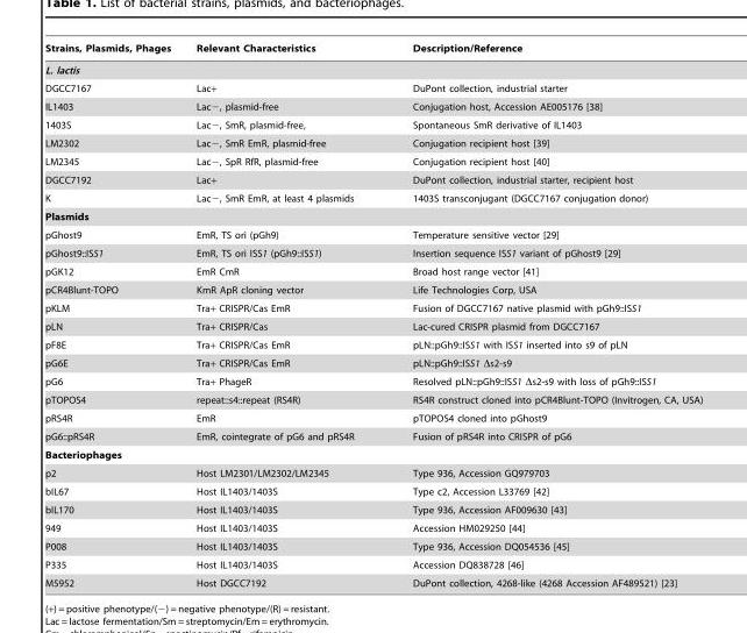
<table><thead><tr><td>Strains, Plasmids, Phages</td><td>Relevant Characteristics</td><td>Description/Reference</td></tr></thead><tbody><tr><td colspan="3">L. lactis</td></tr><tr><td>DGCC7167</td><td>Lac+</td><td>DuPont collection, industrial starter</td></tr><tr><td>IL1403</td><td>Lac−, plasmid-free</td><td>Conjugation host, Accession AE005176 [38]</td></tr><tr><td>1403S</td><td>Lac−, SmR, plasmid-free,</td><td>Spontaneous SmR derivative of IL1403</td></tr><tr><td>LM2302</td><td>Lac−, SmR EmR, plasmid-free</td><td>Conjugation recipient host [39]</td></tr><tr><td>LM2345</td><td>Lac−, SpR RfR, plasmid-free</td><td>Conjugation recipient host [40]</td></tr><tr><td>DGCC7192</td><td>Lac+</td><td>DuPont collection, industrial starter, recipient host</td></tr><tr><td>K</td><td>Lac−, SmR EmR, at least 4 plasmids</td><td>1403S transconjugant (DGCC7167 conjugation donor)</td></tr><tr><td colspan="3">Plasmids</td></tr><tr><td>pGhost9</td><td>EmR, TS ori (pGh9)</td><td>Temperature sensitive vector [29]</td></tr><tr><td>pGhost9::ISS1</td><td>EmR, TS ori ISS1 (pGh9::ISS1)</td><td>Insertion sequence ISS1 variant of pGhost9 [29]</td></tr><tr><td>pGK12</td><td>EmR CmR</td><td>Broad host range vector [41]</td></tr><tr><td>pCR4Blunt-TOPO</td><td>KmR ApR cloning vector</td><td>Life Technologies Corp, USA</td></tr><tr><td>pKLM</td><td>Tra+ CRISPR/Cas EmR</td><td>Fusion of DGCC7167 native plasmid with pGh9::ISS1</td></tr><tr><td>pLN</td><td>Tra+ CRISPR/Cas</td><td>Lac-cured CRISPR plasmid from DGCC7167</td></tr><tr><td>pF8E</td><td>Tra+ CRISPR/Cas EmR</td><td>pLN::pGh9::ISS1 with ISS1 inserted into s9 of pLN</td></tr><tr><td>pG6E</td><td>Tra+ CRISPR/Cas EmR</td><td>pLN::pGh9::ISS1 Δs2-s9</td></tr><tr><td>pG6</td><td>Tra+ PhageR</td><td>Resolved pLN::pGh9::ISS1 Δs2-s9 with loss of pGh9::ISS1</td></tr><tr><td>pTOPOS4</td><td>repeat::s4::repeat (RS4R)</td><td>RS4R construct cloned into pCR4Blunt-TOPO (Invitrogen, CA, USA)</td></tr><tr><td>pRS4R</td><td>EmR</td><td>pTOPOS4 cloned into pGhost9</td></tr><tr><td>pG6::pRS4R</td><td>EmR, cointegrate of pG6 and pRS4R</td><td>Fusion of pRS4R into CRISPR of pG6</td></tr><tr><td colspan="3">Bacteriophages</td></tr><tr><td>p2</td><td>Host LM2301/LM2302/LM2345</td><td>Type 936, Accession GQ979703</td></tr><tr><td>bIL67</td><td>Host IL1403/1403S</td><td>Type c2, Accession L33769 [42]</td></tr><tr><td>bIL170</td><td>Host IL1403/1403S</td><td>Type 936, Accession AF009630 [43]</td></tr><tr><td>949</td><td>Host IL1403/1403S</td><td>Accession HM029250 [44]</td></tr><tr><td>P008</td><td>Host IL1403/1403S</td><td>Type 936, Accession DQ054536 [45]</td></tr><tr><td>P335</td><td>Host IL1403/1403S</td><td>Accession DQ838728 [46]</td></tr><tr><td>M5952</td><td>Host DGCC7192</td><td>DuPont collection, 4268-like (4268 Accession AF489521) [23]</td></tr></tbody></table>